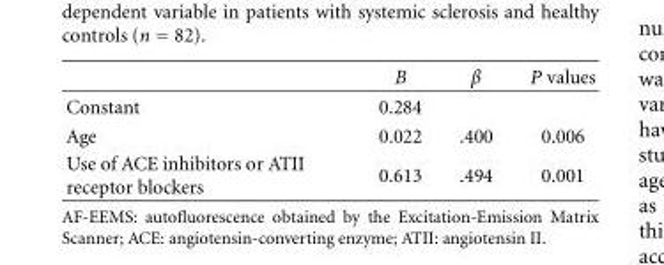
<table><thead><tr><td></td><td>B</td><td>β</td><td>P values</td></tr></thead><tbody><tr><td>Constant</td><td>0.284</td><td></td><td></td></tr><tr><td>Age</td><td>0.022</td><td>.400</td><td>0.006</td></tr><tr><td>Use of ACE inhibitors or ATII receptor blockers</td><td>0.613</td><td>.494</td><td>0.001</td></tr></tbody></table>